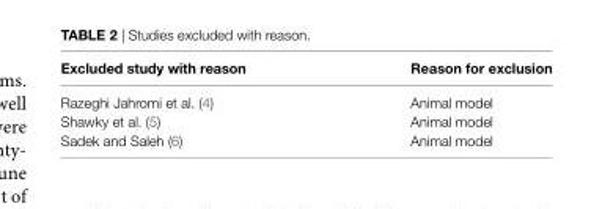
<table><thead><tr><td>excluded study with reason</td><td>Reason for exclusion</td></tr></thead><tbody><tr><td>Razeghi Jahromi et al. (4)</td><td>Animal model</td></tr><tr><td>Shawky et al. (5)</td><td>Animal model</td></tr><tr><td>Sadek and Saleh (6)</td><td>Animal model</td></tr></tbody></table>